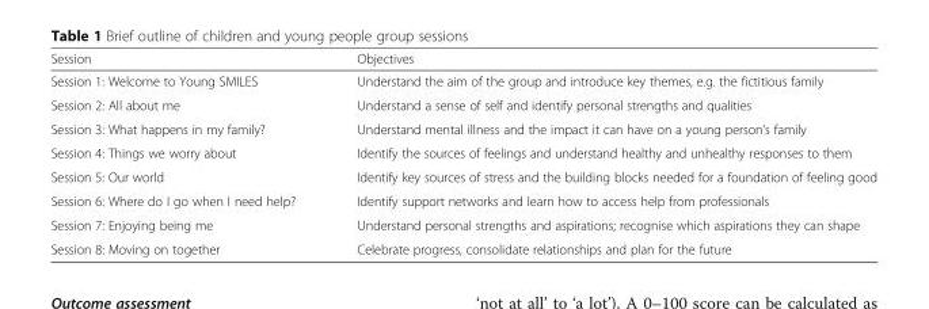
<table><thead><tr><td>Session</td><td>Objectives</td></tr></thead><tbody><tr><td>Session 1: Welcome to Young SMILES</td><td>Understand the aim of the group and introduce key themes, e.g. the fictitious family</td></tr><tr><td>Session 2: All about me</td><td>Understand a sense of self and identify personal strengths and qualities</td></tr><tr><td>Session 3: What happens in my family?</td><td>Understand mental illness and the impact it can have on a young person’s family</td></tr><tr><td>Session 4: Things we worry about</td><td>Identify the sources of feelings and understand healthy and unhealthy responses to them</td></tr><tr><td>Session 5: Our world</td><td>Identify key sources of stress and the building blocks needed for a foundation of feeling good</td></tr><tr><td>Session 6: Where do I go when I need help?</td><td>Identify support networks and learn how to access help from professionals</td></tr><tr><td>Session 7: Enjoying being me</td><td>Understand personal strengths and aspirations; recognise which aspirations they can shape</td></tr><tr><td>Session 8: Moving on together</td><td>Celebrate progress, consolidate relationships and plan for the future</td></tr></tbody></table>